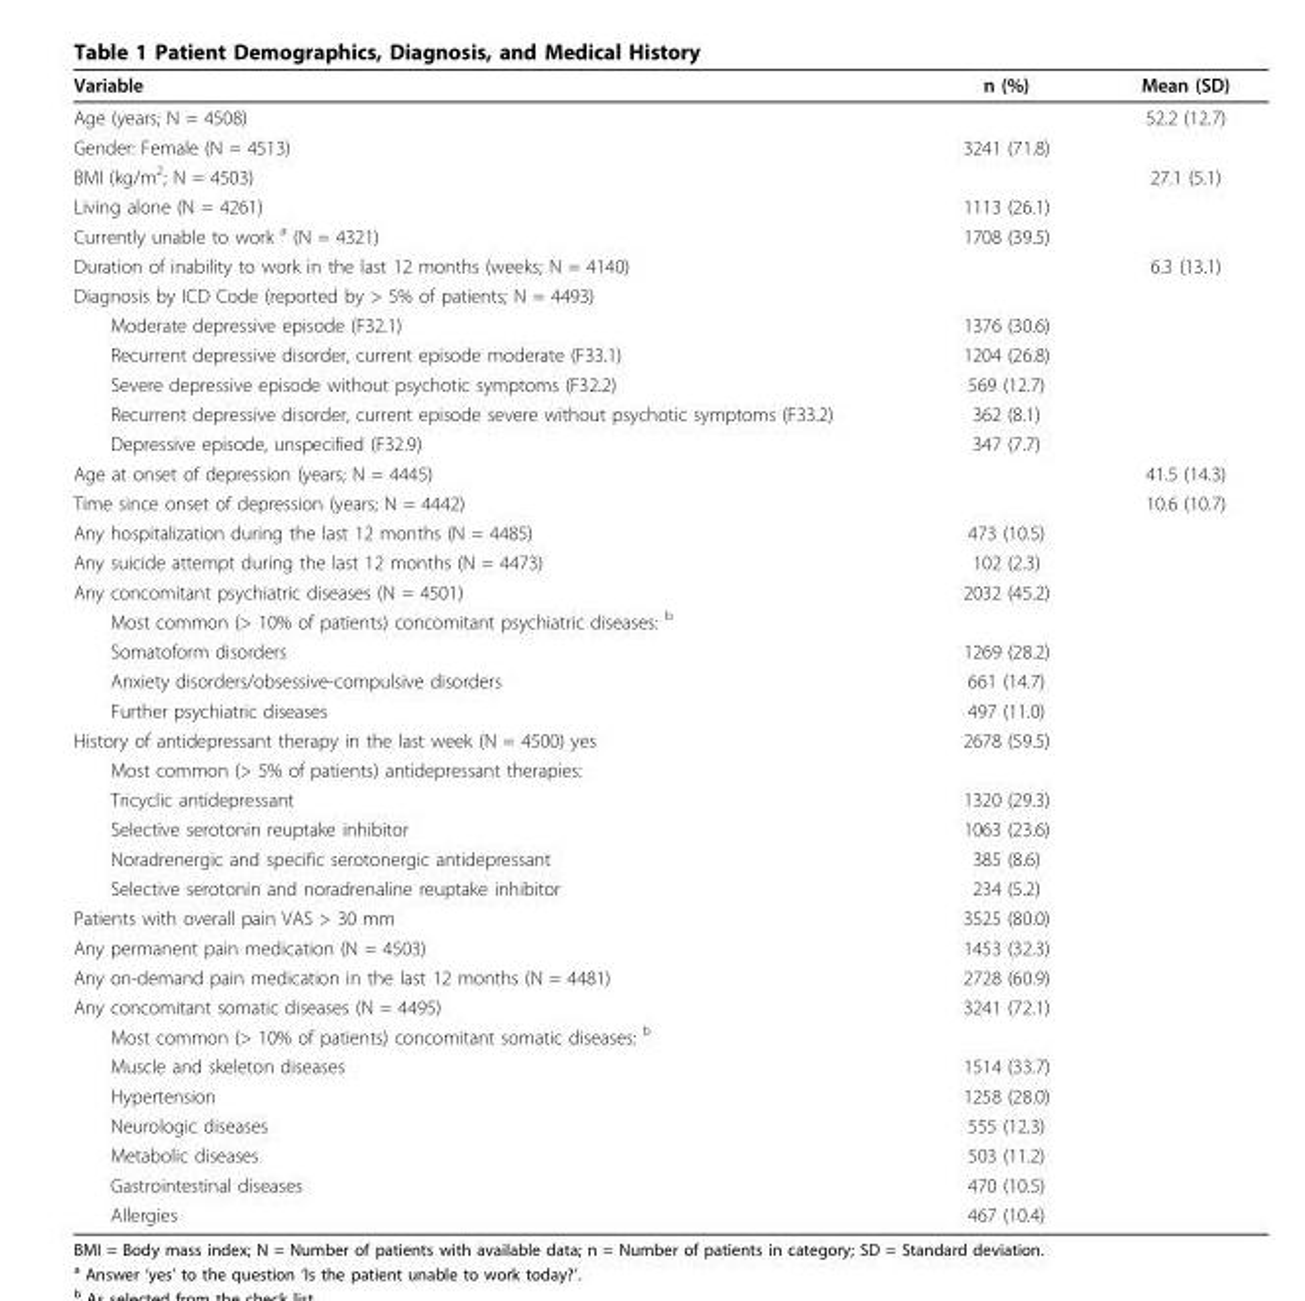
<table><thead><tr><td>Variable</td><td>n (%)</td><td>Mean (SD)</td></tr></thead><tbody><tr><td>Age (years; N = 4508)</td><td></td><td>52.2 (12.7)</td></tr><tr><td>Gender: Female (N = 4513)</td><td>3241 (71.8)</td><td></td></tr><tr><td>BMI (kg/m<sup>2</sup>; N = 4503)</td><td></td><td>27.1 (5.1)</td></tr><tr><td>Living alone (N = 4261)</td><td>1113 (26.1)</td><td></td></tr><tr><td>Currently unable to work <sup>a</sup> (N = 4321)</td><td>1708 (39.5)</td><td></td></tr><tr><td>Duration of inability to work in the last 12 months (weeks; N = 4140)</td><td></td><td>6.3 (13.1)</td></tr><tr><td colspan="3">Diagnosis by ICD Code (reported by &gt; 5% of patients; N = 4493)</td></tr><tr><td>Moderate depressive episode (F32.1)</td><td>1376 (30.6)</td><td></td></tr><tr><td>Recurrent depressive disorder, current episode moderate (F33.1)</td><td>1204 (26.8)</td><td></td></tr><tr><td>Severe depressive episode without psychotic symptoms (F32.2)</td><td>569 (12.7)</td><td></td></tr><tr><td>Recurrent depressive disorder, current episode severe without psychotic symptoms (F33.2)</td><td>362 (8.1)</td><td></td></tr><tr><td>Depressive episode, unspecified (F32.9)</td><td>347 (7.7)</td><td></td></tr><tr><td>Age at onset of depression (years; N = 4445)</td><td></td><td>41.5 (14.3)</td></tr><tr><td>Time since onset of depression (years; N = 4442)</td><td></td><td>10.6 (10.7)</td></tr><tr><td>Any hospitalization during the last 12 months (N = 4485)</td><td>473 (10.5)</td><td></td></tr><tr><td>Any suicide attempt during the last 12 months (N = 4473)</td><td>102 (2.3)</td><td></td></tr><tr><td>Any concomitant psychiatric diseases (N = 4501)</td><td>2032 (45.2)</td><td></td></tr><tr><td colspan="3">Most common (&gt; 10% of patients) concomitant psychiatric diseases: <sup>b</sup></td></tr><tr><td>Somatoform disorders</td><td>1269 (28.2)</td><td></td></tr><tr><td>Anxiety disorders/obsessive-compulsive disorders</td><td>661 (14.7)</td><td></td></tr><tr><td>Further psychiatric diseases</td><td>497 (11.0)</td><td></td></tr><tr><td>History of antidepressant therapy in the last week (N = 4500) yes</td><td>2678 (59.5)</td><td></td></tr><tr><td colspan="3">Most common (&gt; 5% of patients) antidepressant therapies:</td></tr><tr><td>Tricyclic antidepressant</td><td>1320 (29.3)</td><td></td></tr><tr><td>Selective serotonin reuptake inhibitor</td><td>1063 (23.6)</td><td></td></tr><tr><td>Noradrenergic and specific serotonergic antidepressant</td><td>385 (8.6)</td><td></td></tr><tr><td>Selective serotonin and noradrenaline reuptake inhibitor</td><td>234 (5.2)</td><td></td></tr><tr><td>Patients with overall pain VAS &gt; 30 mm</td><td>3525 (80.0)</td><td></td></tr><tr><td>Any permanent pain medication (N = 4503)</td><td>1453 (32.3)</td><td></td></tr><tr><td>Any on-demand pain medication in the last 12 months (N = 4481)</td><td>2728 (60.9)</td><td></td></tr><tr><td>Any concomitant somatic diseases (N = 4495)</td><td>3241 (72.1)</td><td></td></tr><tr><td colspan="3">Most common (&gt; 10% of patients) concomitant somatic diseases: <sup>b</sup></td></tr><tr><td>Muscle and skeleton diseases</td><td>1514 (33.7)</td><td></td></tr><tr><td>Hypertension</td><td>1258 (28.0)</td><td></td></tr><tr><td>Neurologic diseases</td><td>555 (12.3)</td><td></td></tr><tr><td>Metabolic diseases</td><td>503 (11.2)</td><td></td></tr><tr><td>Gastrointestinal diseases</td><td>470 (10.5)</td><td></td></tr><tr><td>Allergies</td><td>467 (10.4)</td><td></td></tr></tbody></table>